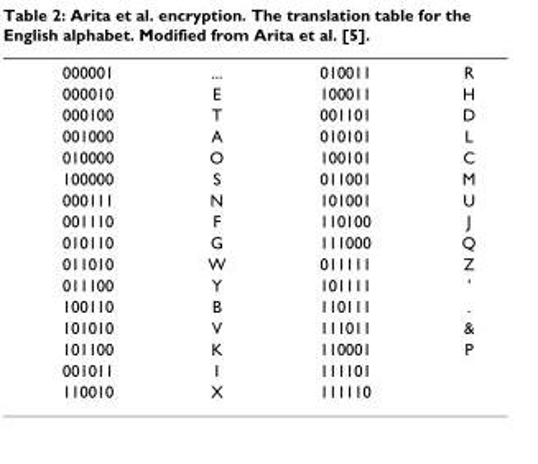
<table><tbody><tr><td>000001</td><td>...</td><td>010011</td><td>R</td></tr><tr><td>000010</td><td>E</td><td>100011</td><td>H</td></tr><tr><td>000100</td><td>T</td><td>001101</td><td>D</td></tr><tr><td>001000</td><td>A</td><td>010101</td><td>L</td></tr><tr><td>010000</td><td>O</td><td>100101</td><td>C</td></tr><tr><td>100000</td><td>S</td><td>011001</td><td>M</td></tr><tr><td>000111</td><td>N</td><td>101001</td><td>U</td></tr><tr><td>001110</td><td>F</td><td>110100</td><td>J</td></tr><tr><td>010110</td><td>G</td><td>111000</td><td>Q</td></tr><tr><td>011010</td><td>W</td><td>011111</td><td>Z</td></tr><tr><td>011100</td><td>Y</td><td>101111</td><td>&#x27;</td></tr><tr><td>100110</td><td>B</td><td>110111</td><td>.</td></tr><tr><td>101010</td><td>V</td><td>111011</td><td>&amp;</td></tr><tr><td>101100</td><td>K</td><td>110001</td><td>P</td></tr><tr><td>001011</td><td>I</td><td>111101</td><td></td></tr><tr><td>110010</td><td>X</td><td>111110</td><td></td></tr></tbody></table>